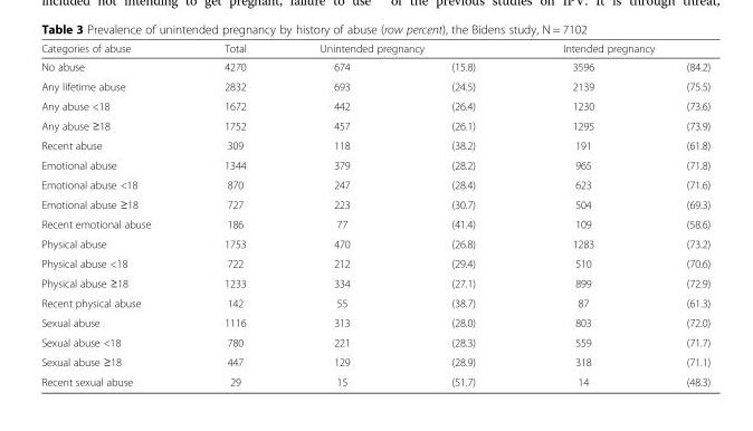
<table><thead><tr><td rowspan="2">Categories of abuse No abuse</td><td rowspan="2">Total 4270</td><td colspan="2">Unintended pregnancy</td><td colspan="2">Intended pregnancy</td></tr><tr><td>674</td><td>(15.8)</td><td>3596</td><td>(84.2)</td></tr></thead><tbody><tr><td>Any lifetime abuse</td><td>2832</td><td>693</td><td>(24.5)</td><td>2139</td><td>(75.5)</td></tr><tr><td>Any abuse &lt;18</td><td>1672</td><td>442</td><td>(26.4)</td><td>1230</td><td>(73.6)</td></tr><tr><td>Any abuse ≥18</td><td>1752</td><td>457</td><td>(26.1)</td><td>1295</td><td>(73.9)</td></tr><tr><td>Recent abuse</td><td>309</td><td>118</td><td>(38.2)</td><td>191</td><td>(61.8)</td></tr><tr><td>Emotional abuse</td><td>1344</td><td>379</td><td>(28.2)</td><td>965</td><td>(71.8)</td></tr><tr><td>Emotional abuse &lt;18</td><td>870</td><td>247</td><td>(28.4)</td><td>623</td><td>(71.6)</td></tr><tr><td>Emotional abuse ≥18</td><td>727</td><td>223</td><td>(30.7)</td><td>504</td><td>(69.3)</td></tr><tr><td>Recent emotional abuse</td><td>186</td><td>77</td><td>(41.4)</td><td>109</td><td>(58.6)</td></tr><tr><td>Physical abuse</td><td>1753</td><td>470</td><td>(26.8)</td><td>1283</td><td>(73.2)</td></tr><tr><td>Physical abuse &lt;18</td><td>722</td><td>212</td><td>(29.4)</td><td>510</td><td>(70.6)</td></tr><tr><td>Physical abuse ≥18</td><td>1233</td><td>334</td><td>(27.1)</td><td>899</td><td>(72.9)</td></tr><tr><td>Recent physical abuse</td><td>142</td><td>55</td><td>(38.7)</td><td>87</td><td>(61.3)</td></tr><tr><td>Sexual abuse</td><td>1116</td><td>313</td><td>(28.0)</td><td>803</td><td>(72.0)</td></tr><tr><td>Sexual abuse &lt;18</td><td>780</td><td>221</td><td>(28.3)</td><td>559</td><td>(71.7)</td></tr><tr><td>Sexual abuse ≥18</td><td>447</td><td>129</td><td>(28.9)</td><td>318</td><td>(71.1)</td></tr><tr><td>Recent sexual abuse</td><td>29</td><td>15</td><td>(51.7)</td><td>14</td><td>(48.3)</td></tr></tbody></table>